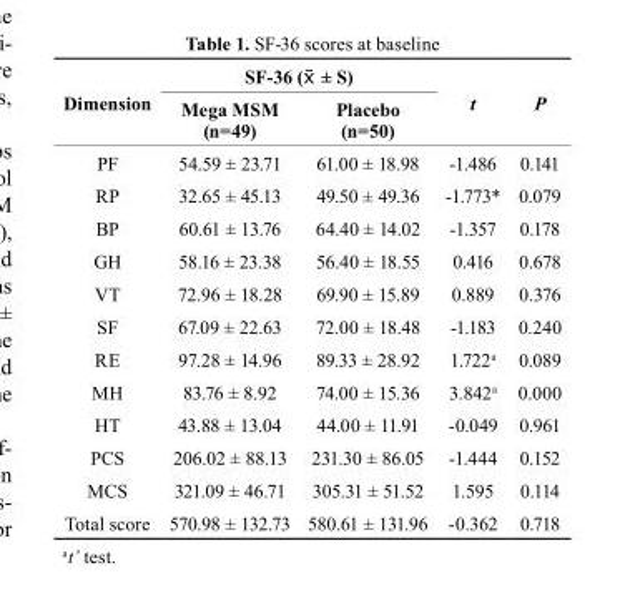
<table><thead><tr><td rowspan="2">Dimension</td><td colspan="2">sF-36 (X ± S)</td><td rowspan="2">t</td><td rowspan="2">P</td></tr><tr><td>Mega MsM (n=49)</td><td>Placebo (n=50)</td></tr></thead><tbody><tr><td>PF</td><td>54.59 ± 23.71</td><td>61.00 ± 18.98</td><td>-1.486</td><td>0.141</td></tr><tr><td>RP</td><td>32.65 ± 45.13</td><td>49.50 ± 49.36</td><td>-1.773*</td><td>0.079</td></tr><tr><td>BP</td><td>60.61 ± 13.76</td><td>64.40 ± 14.02</td><td>-1.357</td><td>0.178</td></tr><tr><td>GH</td><td>58.16 ± 23.38</td><td>56.40 ± 18.55</td><td>0.416</td><td>0.678</td></tr><tr><td>VT</td><td>72.96 ± 18.28</td><td>69.90 ± 15.89</td><td>0.889</td><td>0.376</td></tr><tr><td>SF</td><td>67.09 ± 22.63</td><td>72.00 ± 18.48</td><td>-1.183</td><td>0.240</td></tr><tr><td>RE</td><td>97.28 ± 14.96</td><td>89.33 ± 28.92</td><td>1.722<sup>a</sup></td><td>0.089</td></tr><tr><td>MH</td><td>83.76 ± 8.92</td><td>74.00 ± 15.36</td><td>3.842<sup>a</sup></td><td>0.000</td></tr><tr><td>HT</td><td>43.88 ± 13.04</td><td>44.00 ± 11.91</td><td>-0.049</td><td>0.961</td></tr><tr><td>PCS</td><td>206.02 ± 88.13</td><td>231.30 ± 86.05</td><td>-1.444</td><td>0.152</td></tr><tr><td>MCS</td><td>321.09 ± 46.71</td><td>305.31 ± 51.52</td><td>1.595</td><td>0.114</td></tr><tr><td>Total score</td><td>570.98 ± 132.73</td><td>580.61 ± 131.96</td><td>-0.362</td><td>0.718</td></tr></tbody></table>